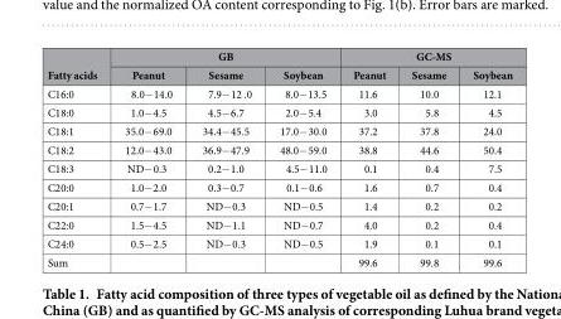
<table><thead><tr><td rowspan="2">Fatty acids</td><td colspan="3">GB</td><td colspan="3">GC-MS</td></tr><tr><td>Peanut</td><td>Sesame</td><td>Soybean</td><td>Peanut</td><td>Sesame</td><td>Soybean</td></tr></thead><tbody><tr><td>C16:0</td><td>8.0− 14.0</td><td>7.9− 12 .0</td><td>8.0− 13.5</td><td>11.6</td><td>10.0</td><td>12.1</td></tr><tr><td>C18:0</td><td>1.0− 4.5</td><td>4.5− 6.7</td><td>2.0− 5.4</td><td>3.0</td><td>5.8</td><td>4.5</td></tr><tr><td>C18:1</td><td>35.0− 69.0</td><td>34.4− 45.5</td><td>17.0− 30.0</td><td>37.2</td><td>37.8</td><td>24.0</td></tr><tr><td>C18:2</td><td>12.0− 43.0</td><td>36.9− 47.9</td><td>48.0− 59.0</td><td>38.8</td><td>44.6</td><td>50.4</td></tr><tr><td>C18:3</td><td>ND− 0.3</td><td>0.2− 1.0</td><td>4.5− 11.0</td><td>0.1</td><td>0.4</td><td>7.5</td></tr><tr><td>C20:0</td><td>1.0− 2.0</td><td>0.3− 0.7</td><td>0.1− 0.6</td><td>1.6</td><td>0.7</td><td>0.4</td></tr><tr><td>C20:1</td><td>0.7− 1.7</td><td>ND− 0.3</td><td>ND− 0.5</td><td>1.4</td><td>0.2</td><td>0.2</td></tr><tr><td>C22:0</td><td>1.5− 4.5</td><td>ND− 1.1</td><td>ND− 0.7</td><td>4.0</td><td>0.2</td><td>0.4</td></tr><tr><td>C24:0</td><td>0.5− 2.5</td><td>ND− 0.3</td><td>ND− 0.5</td><td>1.9</td><td>0.1</td><td>0.1</td></tr><tr><td>Sum</td><td></td><td></td><td></td><td>99.6</td><td>99.8</td><td>99.6</td></tr></tbody></table>